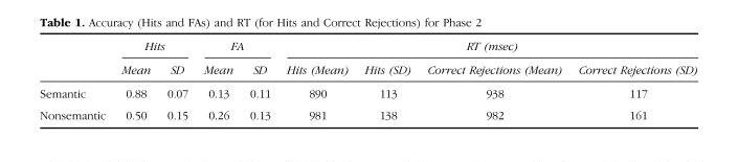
<table><thead><tr><td rowspan="2"></td><td colspan="2">Hits</td><td colspan="2">FA</td><td colspan="4">RT (msec)</td></tr><tr><td>Mean</td><td>SD</td><td>Mean</td><td>SD</td><td>Hits (Mean)</td><td>Hits (SD)</td><td>Correct Rejections (Mean)</td><td>Correct Rejections (SD)</td></tr></thead><tbody><tr><td>Semantic</td><td>0.88</td><td>0.07</td><td>0.13</td><td>0.11</td><td>890</td><td>113</td><td>938</td><td>117</td></tr><tr><td>Nonsemantic</td><td>0.50</td><td>0.15</td><td>0.26</td><td>0.13</td><td>981</td><td>138</td><td>982</td><td>161</td></tr></tbody></table>